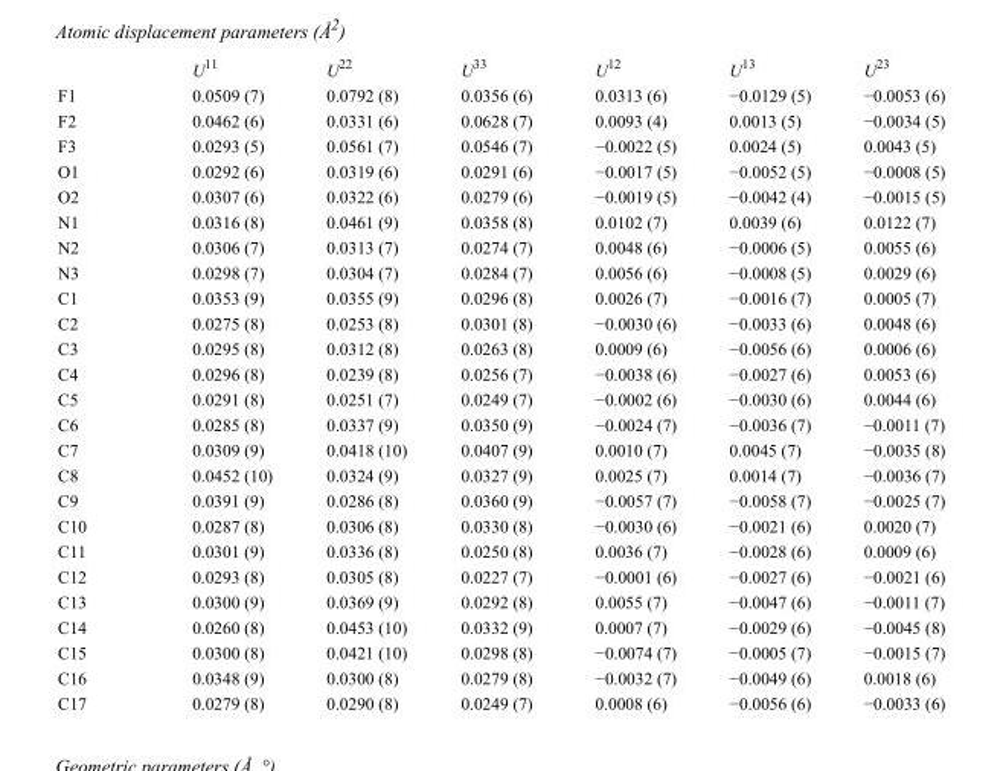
<table><thead><tr><td></td><td>U<sup>11</sup></td><td>U<sup>22</sup></td><td>U<sup>33</sup></td><td>U<sup>12</sup></td><td>U<sup>13</sup></td><td>U<sup>23</sup></td></tr></thead><tbody><tr><td>F1</td><td>0.0509 (7)</td><td>0.0792 (8)</td><td>0.0356 (6)</td><td>0.0313 (6)</td><td>−0.0129 (5)</td><td>−0.0053 (6)</td></tr><tr><td>F2</td><td>0.0462 (6)</td><td>0.0331 (6)</td><td>0.0628 (7)</td><td>0.0093 (4)</td><td>0.0013 (5)</td><td>−0.0034 (5)</td></tr><tr><td>F3</td><td>0.0293 (5)</td><td>0.0561 (7)</td><td>0.0546 (7)</td><td>−0.0022 (5)</td><td>0.0024 (5)</td><td>0.0043 (5)</td></tr><tr><td>O1</td><td>0.0292 (6)</td><td>0.0319 (6)</td><td>0.0291 (6)</td><td>−0.0017 (5)</td><td>−0.0052 (5)</td><td>−0.0008 (5)</td></tr><tr><td>O2</td><td>0.0307 (6)</td><td>0.0322 (6)</td><td>0.0279 (6)</td><td>−0.0019 (5)</td><td>−0.0042 (4)</td><td>−0.0015 (5)</td></tr><tr><td>N1</td><td>0.0316 (8)</td><td>0.0461 (9)</td><td>0.0358 (8)</td><td>0.0102 (7)</td><td>0.0039 (6)</td><td>0.0122 (7)</td></tr><tr><td>N2</td><td>0.0306 (7)</td><td>0.0313 (7)</td><td>0.0274 (7)</td><td>0.0048 (6)</td><td>−0.0006 (5)</td><td>0.0055 (6)</td></tr><tr><td>N3</td><td>0.0298 (7)</td><td>0.0304 (7)</td><td>0.0284 (7)</td><td>0.0056 (6)</td><td>−0.0008 (5)</td><td>0.0029 (6)</td></tr><tr><td>C1</td><td>0.0353 (9)</td><td>0.0355 (9)</td><td>0.0296 (8)</td><td>0.0026 (7)</td><td>−0.0016 (7)</td><td>0.0005 (7)</td></tr><tr><td>C2</td><td>0.0275 (8)</td><td>0.0253 (8)</td><td>0.0301 (8)</td><td>−0.0030 (6)</td><td>−0.0033 (6)</td><td>0.0048 (6)</td></tr><tr><td>C3</td><td>0.0295 (8)</td><td>0.0312 (8)</td><td>0.0263 (8)</td><td>0.0009 (6)</td><td>−0.0056 (6)</td><td>0.0006 (6)</td></tr><tr><td>C4</td><td>0.0296 (8)</td><td>0.0239 (8)</td><td>0.0256 (7)</td><td>−0.0038 (6)</td><td>−0.0027 (6)</td><td>0.0053 (6)</td></tr><tr><td>C5</td><td>0.0291 (8)</td><td>0.0251 (7)</td><td>0.0249 (7)</td><td>−0.0002 (6)</td><td>−0.0030 (6)</td><td>0.0044 (6)</td></tr><tr><td>C6</td><td>0.0285 (8)</td><td>0.0337 (9)</td><td>0.0350 (9)</td><td>−0.0024 (7)</td><td>−0.0036 (7)</td><td>−0.0011 (7)</td></tr><tr><td>C7</td><td>0.0309 (9)</td><td>0.0418 (10)</td><td>0.0407 (9)</td><td>0.0010 (7)</td><td>0.0045 (7)</td><td>−0.0035 (8)</td></tr><tr><td>C8</td><td>0.0452 (10)</td><td>0.0324 (9)</td><td>0.0327 (9)</td><td>0.0025 (7)</td><td>0.0014 (7)</td><td>−0.0036 (7)</td></tr><tr><td>C9</td><td>0.0391 (9)</td><td>0.0286 (8)</td><td>0.0360 (9)</td><td>−0.0057 (7)</td><td>−0.0058 (7)</td><td>−0.0025 (7)</td></tr><tr><td>C10</td><td>0.0287 (8)</td><td>0.0306 (8)</td><td>0.0330 (8)</td><td>−0.0030 (6)</td><td>−0.0021 (6)</td><td>0.0020 (7)</td></tr><tr><td>C11</td><td>0.0301 (9)</td><td>0.0336 (8)</td><td>0.0250 (8)</td><td>0.0036 (7)</td><td>−0.0028 (6)</td><td>0.0009 (6)</td></tr><tr><td>C12</td><td>0.0293 (8)</td><td>0.0305 (8)</td><td>0.0227 (7)</td><td>−0.0001 (6)</td><td>−0.0027 (6)</td><td>−0.0021 (6)</td></tr><tr><td>C13</td><td>0.0300 (9)</td><td>0.0369 (9)</td><td>0.0292 (8)</td><td>0.0055 (7)</td><td>−0.0047 (6)</td><td>−0.0011 (7)</td></tr><tr><td>C14</td><td>0.0260 (8)</td><td>0.0453 (10)</td><td>0.0332 (9)</td><td>0.0007 (7)</td><td>−0.0029 (6)</td><td>−0.0045 (8)</td></tr><tr><td>C15</td><td>0.0300 (8)</td><td>0.0421 (10)</td><td>0.0298 (8)</td><td>−0.0074 (7)</td><td>−0.0005 (7)</td><td>−0.0015 (7)</td></tr><tr><td>C16</td><td>0.0348 (9)</td><td>0.0300 (8)</td><td>0.0279 (8)</td><td>−0.0032 (7)</td><td>−0.0049 (6)</td><td>0.0018 (6)</td></tr><tr><td>C17</td><td>0.0279 (8)</td><td>0.0290 (8)</td><td>0.0249 (7)</td><td>0.0008 (6)</td><td>−0.0056 (6)</td><td>−0.0033 (6)</td></tr></tbody></table>